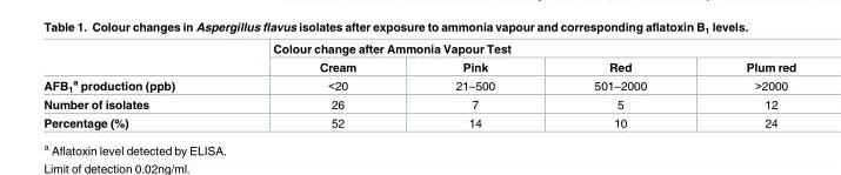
<table><thead><tr><td rowspan="2"></td><td colspan="4">Colour change after Ammonia Vapour Test</td></tr><tr><td>Cream</td><td>Pink</td><td>Red</td><td>Plum red</td></tr></thead><tbody><tr><td>AFB<sub>1</sub> <sup>a</sup> production (ppb)</td><td>&lt;20</td><td>21–500</td><td>501–2000</td><td>&gt;2000</td></tr><tr><td>Number of isolates</td><td>26</td><td>7</td><td>5</td><td>12</td></tr><tr><td>Percentage (%)</td><td>52</td><td>14</td><td>10</td><td>24</td></tr></tbody></table>